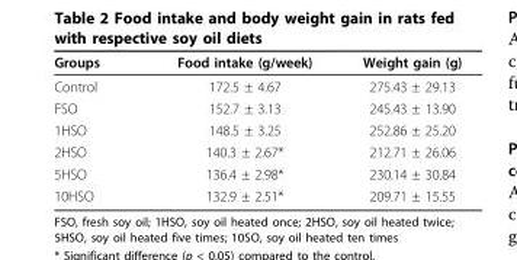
<table><thead><tr><td>Groups</td><td>Food intake (g/week)</td><td>Weight gain (g)</td></tr></thead><tbody><tr><td>Control</td><td>172.5 ± 4.67</td><td>275.43 ± 29.13</td></tr><tr><td>FSO</td><td>152.7 ± 3.13</td><td>245.43 ± 13.90</td></tr><tr><td>1HSO</td><td>148.5 ± 3.25</td><td>252.86 ± 25.20</td></tr><tr><td>2HSO</td><td>140.3 ± 2.67*</td><td>212.71 ± 26.06</td></tr><tr><td>5HSO</td><td>136.4 ± 2.98*</td><td>230.14 ± 30.84</td></tr><tr><td>10HSO</td><td>132.9 ± 2.51*</td><td>209.71 ± 15.55</td></tr></tbody></table>